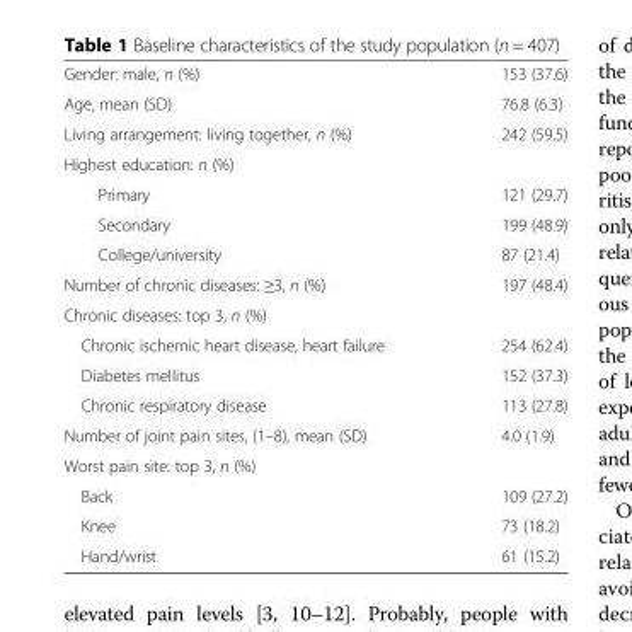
<table><tbody><tr><td>Gender: male, n (%)</td><td>153 (37.6)</td></tr><tr><td>Age, mean (SD)</td><td>76.8 (6.3)</td></tr><tr><td>Living arrangement: living together, n (%)</td><td>242 (59.5)</td></tr><tr><td colspan="2">Highest education: n (%)</td></tr><tr><td>Primary</td><td>121 (29.7)</td></tr><tr><td>Secondary</td><td>199 (48.9)</td></tr><tr><td>College/university</td><td>87 (21.4)</td></tr><tr><td>Number of chronic diseases: ≥3, n (%)</td><td>197 (48.4)</td></tr><tr><td colspan="2">Chronic diseases: top 3, n (%)</td></tr><tr><td>Chronic ischemic heart disease, heart failure</td><td>254 (62.4)</td></tr><tr><td>Diabetes mellitus</td><td>152 (37.3)</td></tr><tr><td>Chronic respiratory disease</td><td>113 (27.8)</td></tr><tr><td>Number of joint pain sites, (1–8), mean (SD)</td><td>4.0 (1.9)</td></tr><tr><td colspan="2">Worst pain site: top 3, n (%)</td></tr><tr><td>Back</td><td>109 (27.2)</td></tr><tr><td>Knee</td><td>73 (18.2)</td></tr><tr><td>Hand/wrist</td><td>61 (15.2)</td></tr></tbody></table>